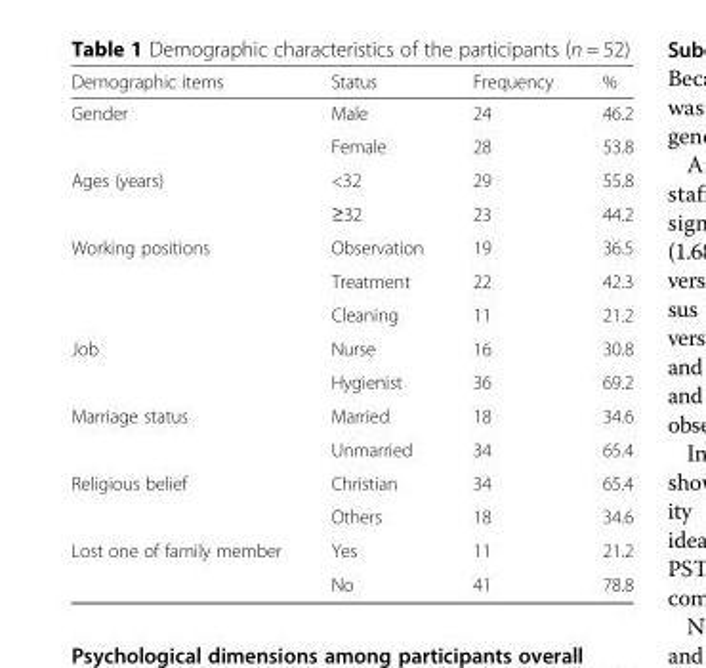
<table><thead><tr><td>Demographic items</td><td>Status</td><td>Frequency</td><td>%</td></tr></thead><tbody><tr><td rowspan="2">Gender</td><td>Male</td><td>24</td><td>46.2</td></tr><tr><td>Female</td><td>28</td><td>53.8</td></tr><tr><td rowspan="2">Ages (years)</td><td>&lt;32</td><td>29</td><td>55.8</td></tr><tr><td>≥32</td><td>23</td><td>44.2</td></tr><tr><td rowspan="3">Working positions</td><td>Observation</td><td>19</td><td>36.5</td></tr><tr><td>Treatment</td><td>22</td><td>42.3</td></tr><tr><td>Cleaning</td><td>11</td><td>21.2</td></tr><tr><td rowspan="2">Job</td><td>Nurse</td><td>16</td><td>30.8</td></tr><tr><td>Hygienist</td><td>36</td><td>69.2</td></tr><tr><td rowspan="2">Marriage status</td><td>Married</td><td>18</td><td>34.6</td></tr><tr><td>Unmarried</td><td>34</td><td>65.4</td></tr><tr><td rowspan="2">Religious belief</td><td>Christian</td><td>34</td><td>65.4</td></tr><tr><td>Others</td><td>18</td><td>34.6</td></tr><tr><td rowspan="2">Lost one of family member</td><td>Yes</td><td>11</td><td>21.2</td></tr><tr><td>No</td><td>41</td><td>78.8</td></tr></tbody></table>